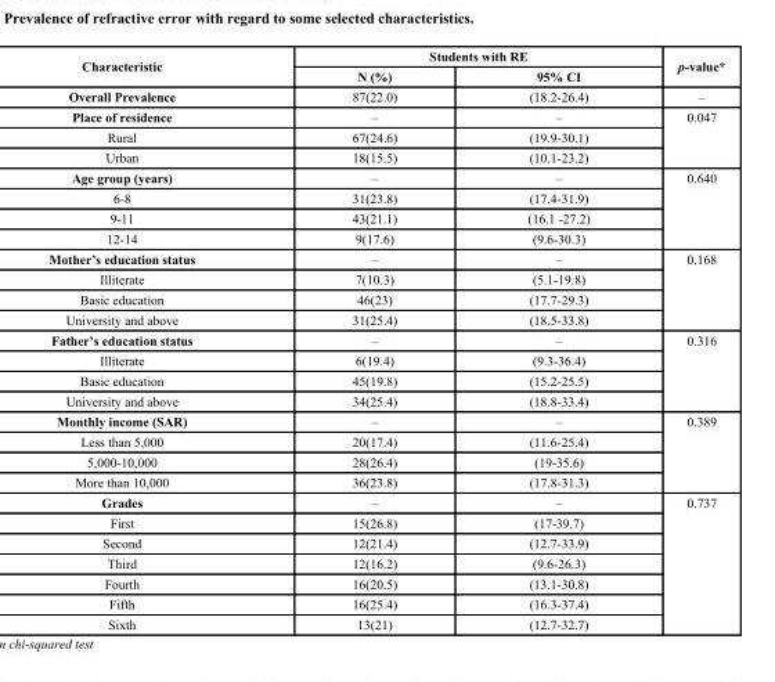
<table><thead><tr><td rowspan="2">Characteristic</td><td colspan="2">Students with RE</td><td rowspan="2">p-value*</td></tr><tr><td>N (%)</td><td>95% CI</td></tr></thead><tbody><tr><td>Overall Prevalence</td><td>87(22.0)</td><td>(18.2-26.4)</td><td>–</td></tr><tr><td>Place of residence</td><td>–</td><td>–</td><td rowspan="3">0.047</td></tr><tr><td>Rural</td><td>67(24.6)</td><td>(19.9-30.1)</td></tr><tr><td>Urban</td><td>18(15.5)</td><td>(10.1-23.2)</td></tr><tr><td>Age group (years)</td><td>–</td><td>–</td><td rowspan="4">0.640</td></tr><tr><td>6-8</td><td>31(23.8)</td><td>(17.4-31.9)</td></tr><tr><td>9-11</td><td>43(21.1)</td><td>(16.1 -27.2)</td></tr><tr><td>12-14</td><td>9(17.6)</td><td>(9.6-30.3)</td></tr><tr><td>Mother’s education status</td><td>–</td><td>–</td><td rowspan="4">0.168</td></tr><tr><td>Illiterate</td><td>7(10.3)</td><td>(5.1-19.8)</td></tr><tr><td>Basic education</td><td>46(23)</td><td>(17.7-29.3)</td></tr><tr><td>University and above</td><td>31(25.4)</td><td>(18.5-33.8)</td></tr><tr><td>Father’s education status</td><td>–</td><td>–</td><td rowspan="4">0.316</td></tr><tr><td>Illiterate</td><td>6(19.4)</td><td>(9.3-36.4)</td></tr><tr><td>Basic education</td><td>45(19.8)</td><td>(15.2-25.5)</td></tr><tr><td>University and above</td><td>34(25.4)</td><td>(18.8-33.4)</td></tr><tr><td>Monthly income (SAR)</td><td>–</td><td>–</td><td rowspan="4">0.389</td></tr><tr><td>Less than 5,000</td><td>20(17.4)</td><td>(11.6-25.4)</td></tr><tr><td>5,000-10,000</td><td>28(26.4)</td><td>(19-35.6)</td></tr><tr><td>More than 10,000</td><td>36(23.8)</td><td>(17.8-31.3)</td></tr><tr><td>Grades</td><td>–</td><td>–</td><td rowspan="7">0.737</td></tr><tr><td>First</td><td>15(26.8)</td><td>(17-39.7)</td></tr><tr><td>Second</td><td>12(21.4)</td><td>(12.7-33.9)</td></tr><tr><td>Third</td><td>12(16.2)</td><td>(9.6-26.3)</td></tr><tr><td>Fourth</td><td>16(20.5)</td><td>(13.1-30.8)</td></tr><tr><td>Fifth</td><td>16(25.4)</td><td>(16.3-37.4)</td></tr><tr><td>Sixth</td><td>13(21)</td><td>(12.7-32.7)</td></tr></tbody></table>